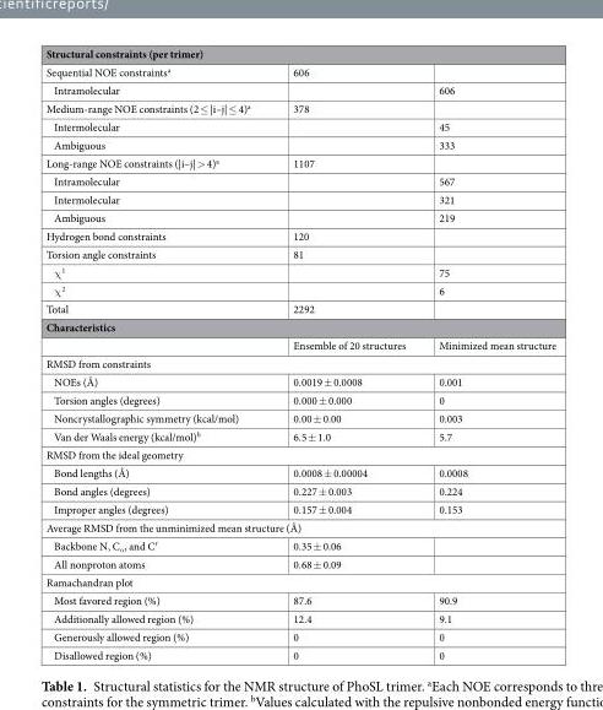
<table><thead><tr><td colspan="3">Structural constraints (per trimer)</td></tr><tr><td>Sequential NOE constraints<sup>a</sup></td><td>606</td><td></td></tr></thead><tbody><tr><td>Intramolecular</td><td></td><td>606</td></tr><tr><td>Medium-range NOE constraints (2 ≤ |i–j| ≤ 4)<sup>a</sup></td><td>378</td><td></td></tr><tr><td>Intermolecular</td><td></td><td>45</td></tr><tr><td>Ambiguous</td><td></td><td>333</td></tr><tr><td>Long-range NOE constraints (|i–j| &gt; 4)<sup>a</sup></td><td>1107</td><td></td></tr><tr><td>Intramolecular</td><td></td><td>567</td></tr><tr><td>Intermolecular</td><td></td><td>321</td></tr><tr><td>Ambiguous</td><td></td><td>219</td></tr><tr><td>Hydrogen bond constraints</td><td>120</td><td></td></tr><tr><td>Torsion angle constraints</td><td>81</td><td></td></tr><tr><td>χ<sup>1</sup></td><td></td><td>75</td></tr><tr><td>χ<sup>2</sup></td><td></td><td>6</td></tr><tr><td>Total</td><td>2292</td><td></td></tr><tr><td colspan="3">Characteristics</td></tr><tr><td></td><td>Ensemble of 20 structures</td><td>Minimized mean structure</td></tr><tr><td colspan="3">RMSD from constraints</td></tr><tr><td>NOEs (Å)</td><td>0.0019 ± 0.0008</td><td>0.001</td></tr><tr><td>Torsion angles (degrees)</td><td>0.000 ± 0.000</td><td>0</td></tr><tr><td>Noncrystallographic symmetry (kcal/mol)</td><td>0.00 ± 0.00</td><td>0.003</td></tr><tr><td>Van der Waals energy (kcal/mol)<sup>b</sup></td><td>6.5 ± 1.0</td><td>5.7</td></tr><tr><td colspan="3">RMSD from the ideal geometry</td></tr><tr><td>Bond lengths (Å)</td><td>0.0008 ± 0.00004</td><td>0.0008</td></tr><tr><td>Bond angles (degrees)</td><td>0.227 ± 0.003</td><td>0.224</td></tr><tr><td>Improper angles (degrees)</td><td>0.157 ± 0.004</td><td>0.153</td></tr><tr><td colspan="3">Average RMSD from the unminimized mean structure (Å)</td></tr><tr><td>Backbone N, C<sub>α</sub>, and C′</td><td>0.35 ± 0.06</td><td></td></tr><tr><td>All nonproton atoms</td><td>0.68 ± 0.09</td><td></td></tr><tr><td colspan="3">Ramachandran plot</td></tr><tr><td>Most favored region (%)</td><td>87.6</td><td>90.9</td></tr><tr><td>Additionally allowed region (%)</td><td>12.4</td><td>9.1</td></tr><tr><td>Generously allowed region (%)</td><td>0</td><td>0</td></tr><tr><td>Disallowed region (%)</td><td>0</td><td>0</td></tr></tbody></table>